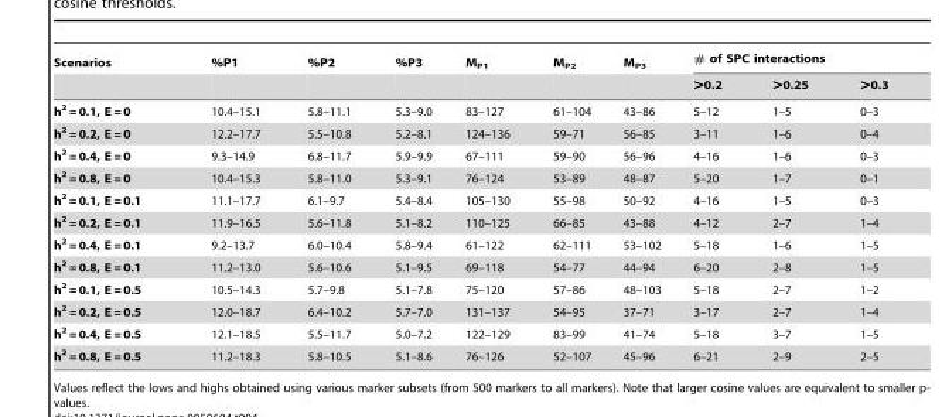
<table><thead><tr><td rowspan="2">Scenarios</td><td rowspan="2">%P1</td><td rowspan="2">%P2</td><td rowspan="2">%P3</td><td rowspan="2">M<sub>P1</sub></td><td rowspan="2">M<sub>P2</sub></td><td rowspan="2">M<sub>P3</sub></td><td colspan="3"># of SPC interactions</td></tr><tr><td>&gt;0.2</td><td>&gt;0.25</td><td>&gt;0.3</td></tr></thead><tbody><tr><td>h<sup>2</sup> = 0.1, E = 0</td><td>10.4–15.1</td><td>5.8–11.1</td><td>5.3–9.0</td><td>83–127</td><td>61–104</td><td>43–86</td><td>5–12</td><td>1–5</td><td>0–3</td></tr><tr><td>h<sup>2</sup> = 0.2, E = 0</td><td>12.2–17.7</td><td>5.5–10.8</td><td>5.2–8.1</td><td>124–136</td><td>59–71</td><td>56–85</td><td>3–11</td><td>1–6</td><td>0–4</td></tr><tr><td>h<sup>2</sup> = 0.4, E = 0</td><td>9.3–14.9</td><td>6.8–11.7</td><td>5.9–9.9</td><td>67–111</td><td>59–90</td><td>56–96</td><td>4–16</td><td>1–6</td><td>0–3</td></tr><tr><td>h<sup>2</sup> = 0.8, E = 0</td><td>10.4–15.3</td><td>5.8–11.0</td><td>5.3–9.1</td><td>76–124</td><td>53–89</td><td>48–87</td><td>5–20</td><td>1–7</td><td>0–1</td></tr><tr><td>h<sup>2</sup> = 0.1, E = 0.1</td><td>11.1–17.7</td><td>6.1–9.7</td><td>5.4–8.4</td><td>105–130</td><td>55–98</td><td>50–92</td><td>4–16</td><td>1–5</td><td>0–3</td></tr><tr><td>h<sup>2</sup> = 0.2, E = 0.1</td><td>11.9–16.5</td><td>5.6–11.8</td><td>5.1–8.2</td><td>110–125</td><td>66–85</td><td>43–88</td><td>4–12</td><td>2–7</td><td>1–4</td></tr><tr><td>h<sup>2</sup> = 0.4, E = 0.1</td><td>9.2–13.7</td><td>6.0–10.4</td><td>5.8–9.4</td><td>61–122</td><td>62–111</td><td>53–102</td><td>5–18</td><td>1–6</td><td>1–5</td></tr><tr><td>h<sup>2</sup> = 0.8, E = 0.1</td><td>11.2–13.0</td><td>5.6–10.6</td><td>5.1–9.5</td><td>69–118</td><td>54–77</td><td>44–94</td><td>6–20</td><td>2–8</td><td>1–5</td></tr><tr><td>h<sup>2</sup> = 0.1, E = 0.5</td><td>10.5–14.3</td><td>5.7–9.8</td><td>5.1–7.8</td><td>75–120</td><td>57–86</td><td>48–103</td><td>5–18</td><td>2–7</td><td>1–2</td></tr><tr><td>h<sup>2</sup> = 0.2, E = 0.5</td><td>12.0–18.7</td><td>6.4–10.2</td><td>5.7–7.0</td><td>131–137</td><td>54–95</td><td>37–71</td><td>3–17</td><td>2–7</td><td>1–4</td></tr><tr><td>h<sup>2</sup> = 0.4, E = 0.5</td><td>12.1–18.5</td><td>5.5–11.7</td><td>5.0–7.2</td><td>122–129</td><td>83–99</td><td>41–74</td><td>5–18</td><td>3–7</td><td>1–5</td></tr><tr><td>h<sup>2</sup> = 0.8, E = 0.5</td><td>11.2–18.3</td><td>5.8–10.5</td><td>5.1–8.6</td><td>76–126</td><td>52–107</td><td>45–96</td><td>6–21</td><td>2–9</td><td>2–5</td></tr></tbody></table>